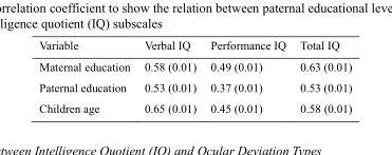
<table><thead><tr><td>Variable</td><td>Verbal IQ</td><td>Performance IQ</td><td>Total IQ</td></tr></thead><tbody><tr><td>Maternal education</td><td>0.58 (0.01)</td><td>0.49 (0.01)</td><td>0.63 (0.01)</td></tr><tr><td>Paternal education</td><td>0.53 (0.01)</td><td>0.37 (0.01)</td><td>0.53 (0.01)</td></tr><tr><td>Children age</td><td>0.65 (0.01)</td><td>0.45 (0.01)</td><td>0.58 (0.01)</td></tr></tbody></table>